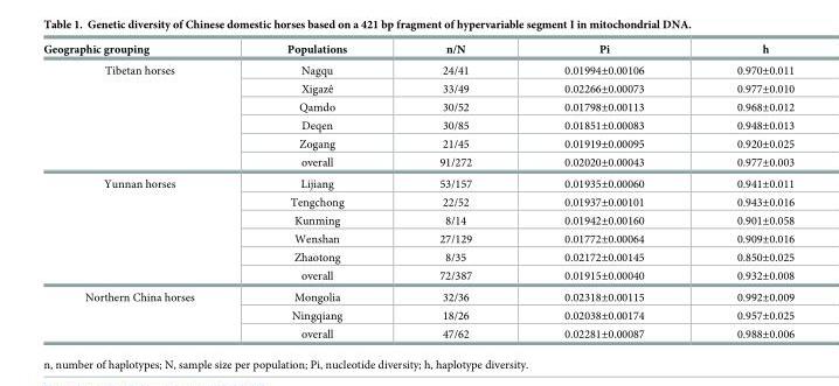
<table><thead><tr><td>Geographic grouping</td><td>Populations</td><td>n/N</td><td>Pi</td><td>h</td></tr></thead><tbody><tr><td rowspan="6">Tibetan horses</td><td>Nagqu</td><td>24/41</td><td>0.01994±0.00106</td><td>0.970±0.011</td></tr><tr><td>Xigazê</td><td>33/49</td><td>0.02266±0.00073</td><td>0.977±0.010</td></tr><tr><td>Qamdo</td><td>30/52</td><td>0.01798±0.00113</td><td>0.968±0.012</td></tr><tr><td>Deqen</td><td>30/85</td><td>0.01851±0.00083</td><td>0.948±0.013</td></tr><tr><td>Zogang</td><td>21/45</td><td>0.01919±0.00095</td><td>0.920±0.025</td></tr><tr><td>overall</td><td>91/272</td><td>0.02020±0.00043</td><td>0.977±0.003</td></tr><tr><td rowspan="6">Yunnan horses</td><td>Lijiang</td><td>53/157</td><td>0.01935±0.00060</td><td>0.941±0.011</td></tr><tr><td>Tengchong</td><td>22/52</td><td>0.01937±0.00101</td><td>0.943±0.016</td></tr><tr><td>Kunming</td><td>8/14</td><td>0.01942±0.00160</td><td>0.901±0.058</td></tr><tr><td>Wenshan</td><td>27/129</td><td>0.01772±0.00064</td><td>0.909±0.016</td></tr><tr><td>Zhaotong</td><td>8/35</td><td>0.02172±0.00145</td><td>0.850±0.025</td></tr><tr><td>overall</td><td>72/387</td><td>0.01915±0.00040</td><td>0.932±0.008</td></tr><tr><td rowspan="3">Northern China horses</td><td>Mongolia</td><td>32/36</td><td>0.02318±0.00115</td><td>0.992±0.009</td></tr><tr><td>Ningqiang</td><td>18/26</td><td>0.02038±0.00174</td><td>0.957±0.025</td></tr><tr><td>overall</td><td>47/62</td><td>0.02281±0.00087</td><td>0.988±0.006</td></tr></tbody></table>